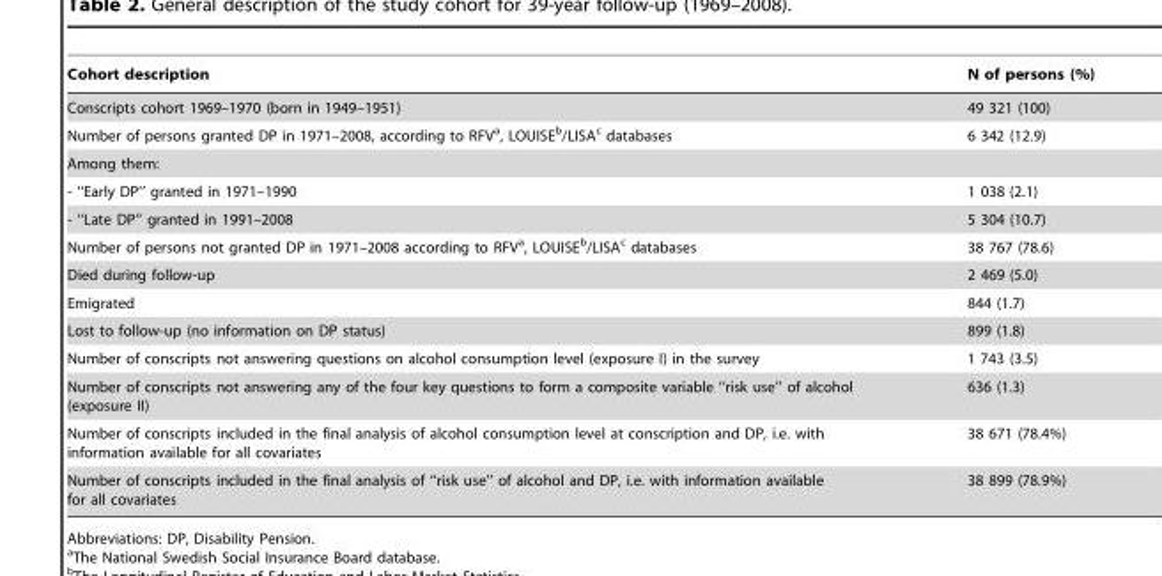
<table><thead><tr><td>Cohort description</td><td>N of persons (%)</td></tr></thead><tbody><tr><td>Conscripts cohort 1969–1970 (born in 1949–1951)</td><td>49 321 (100)</td></tr><tr><td>Number of persons granted DP in 1971–2008, according to RFV<sup>a</sup>, LOUISE<sup>b</sup>/LISA<sup>c</sup> databases</td><td>6 342 (12.9)</td></tr><tr><td colspan="2">Among them:</td></tr><tr><td>- ‘‘Early DP’’ granted in 1971–1990</td><td>1 038 (2.1)</td></tr><tr><td>- ‘‘Late DP’’ granted in 1991–2008</td><td>5 304 (10.7)</td></tr><tr><td>Number of persons not granted DP in 1971–2008 according to RFV<sup>a</sup>, LOUISE<sup>b</sup>/LISA<sup>c</sup> databases</td><td>38 767 (78.6)</td></tr><tr><td>Died during follow-up</td><td>2 469 (5.0)</td></tr><tr><td>Emigrated</td><td>844 (1.7)</td></tr><tr><td>Lost to follow-up (no information on DP status)</td><td>899 (1.8)</td></tr><tr><td>Number of conscripts not answering questions on alcohol consumption level (exposure I) in the survey</td><td>1 743 (3.5)</td></tr><tr><td>Number of conscripts not answering any of the four key questions to form a composite variable ‘‘risk use’’ of alcohol (exposure II)</td><td>636 (1.3)</td></tr><tr><td>Number of conscripts included in the final analysis of alcohol consumption level at conscription and DP, i.e. with information available for all covariates</td><td>38 671 (78.4%)</td></tr><tr><td>Number of conscripts included in the final analysis of ‘‘risk use’’ of alcohol and DP, i.e. with information available for all covariates</td><td>38 899 (78.9%)</td></tr></tbody></table>